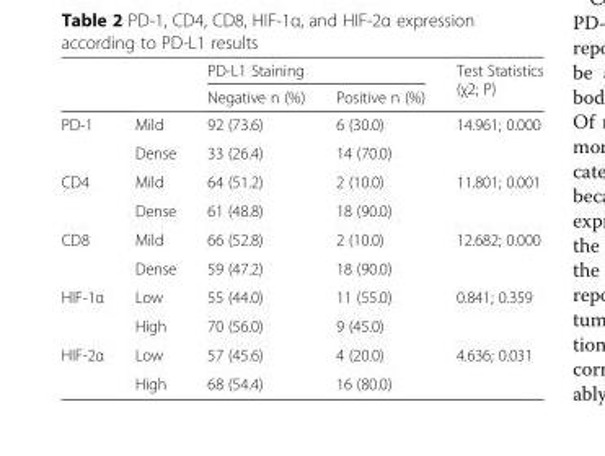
<table><thead><tr><td rowspan="2"></td><td rowspan="2"></td><td colspan="2">PD-L1 Staining</td><td rowspan="2">Test Statistics (χ2; P)</td></tr><tr><td>Negative n (%)</td><td>Positive n (%)</td></tr></thead><tbody><tr><td rowspan="2">PD-1</td><td>Mild</td><td>92 (73.6)</td><td>6 (30.0)</td><td rowspan="2">14.961; 0.000</td></tr><tr><td>Dense</td><td>33 (26.4)</td><td>14 (70.0)</td></tr><tr><td rowspan="2">CD4</td><td>Mild</td><td>64 (51.2)</td><td>2 (10.0)</td><td rowspan="2">11.801; 0.001</td></tr><tr><td>Dense</td><td>61 (48.8)</td><td>18 (90.0)</td></tr><tr><td rowspan="2">CD8</td><td>Mild</td><td>66 (52.8)</td><td>2 (10.0)</td><td rowspan="2">12.682; 0.000</td></tr><tr><td>Dense</td><td>59 (47.2)</td><td>18 (90.0)</td></tr><tr><td rowspan="2">HIF-1α</td><td>Low</td><td>55 (44.0)</td><td>11 (55.0)</td><td rowspan="2">0.841; 0.359</td></tr><tr><td>High</td><td>70 (56.0)</td><td>9 (45.0)</td></tr><tr><td rowspan="2">HIF-2α</td><td>Low</td><td>57 (45.6)</td><td>4 (20.0)</td><td rowspan="2">4.636; 0.031</td></tr><tr><td>High</td><td>68 (54.4)</td><td>16 (80.0)</td></tr></tbody></table>